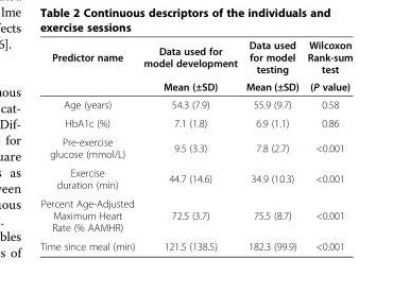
<table><thead><tr><td rowspan="2">Predictor name</td><td rowspan="2">Data used for model development Mean (±SD)</td><td rowspan="2">Data used for model testing Mean (±SD)</td><td rowspan="2">Wilcoxon Rank-sum test (P value)</td></tr><tr></tr></thead><tbody><tr><td>Age (years)</td><td>54.3 (7.9)</td><td>55.9 (9.7)</td><td>0.58</td></tr><tr><td>HbA1c (%)</td><td>7.1 (1.8)</td><td>6.9 (1.1)</td><td>0.86</td></tr><tr><td>Pre-exercise glucose (mmol/L)</td><td>9.5 (3.3)</td><td>7.8 (2.7)</td><td>&lt;0.001</td></tr><tr><td>Exercise duration (min)</td><td>44.7 (14.6)</td><td>34.9 (10.3)</td><td>&lt;0.001</td></tr><tr><td>Percent Age-Adjusted Maximum Heart Rate (% AAMHR)</td><td>72.5 (3.7)</td><td>75.5 (8.7)</td><td>&lt;0.001</td></tr><tr><td>Time since meal (min)</td><td>121.5 (138.5)</td><td>182.3 (99.9)</td><td>&lt;0.001</td></tr></tbody></table>